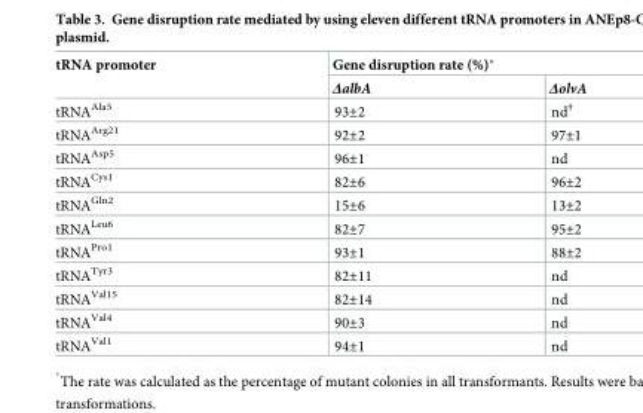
<table><thead><tr><td rowspan="2">tRNA promoter</td><td colspan="2">Gene disruption rate (%)*</td></tr><tr><td>ΔalbA</td><td>ΔolvA</td></tr></thead><tbody><tr><td>tRNA<sup>Ala5</sup></td><td>93±2</td><td>nd<sup>†</sup></td></tr><tr><td>tRNA<sup>Arg21</sup></td><td>92±2</td><td>97±1</td></tr><tr><td>tRNA<sup>Asp5</sup></td><td>96±1</td><td>nd</td></tr><tr><td>tRNA<sup>Cys1</sup></td><td>82±6</td><td>96±2</td></tr><tr><td>tRNA<sup>Gln2</sup></td><td>15±6</td><td>13±2</td></tr><tr><td>tRNA<sup>Leu6</sup></td><td>82±7</td><td>95±2</td></tr><tr><td>tRNA<sup>Pro1</sup></td><td>93±1</td><td>88±2</td></tr><tr><td>tRNA<sup>Tyr3</sup></td><td>82±11</td><td>nd</td></tr><tr><td>tRNA<sup>Val15</sup></td><td>82±14</td><td>nd</td></tr><tr><td>tRNA<sup>Val4</sup></td><td>90±3</td><td>nd</td></tr><tr><td>tRNA<sup>Val1</sup></td><td>94±1</td><td>nd</td></tr></tbody></table>